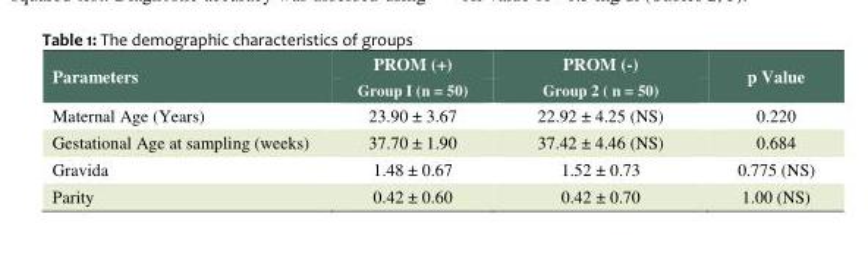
<table><thead><tr><td rowspan="2">Parameters</td><td rowspan="2">PROM (+) Group I (n = 50)</td><td rowspan="2">PROM (-) Group 2 ( n = 50)</td><td rowspan="2">p Value</td></tr><tr></tr></thead><tbody><tr><td>Maternal Age (Years)</td><td>23.90 ± 3.67</td><td>22.92 ± 4.25 (NS)</td><td>0.220</td></tr><tr><td>Gestational Age at sampling (weeks)</td><td>37.70 ± 1.90</td><td>37.42 ± 4.46 (NS)</td><td>0.684</td></tr><tr><td>Gravida</td><td>1.48 ± 0.67</td><td>1.52 ± 0.73</td><td>0.775 (NS)</td></tr><tr><td>Parity</td><td>0.42 ± 0.60</td><td>0.42 ± 0.70</td><td>1.00 (NS)</td></tr></tbody></table>